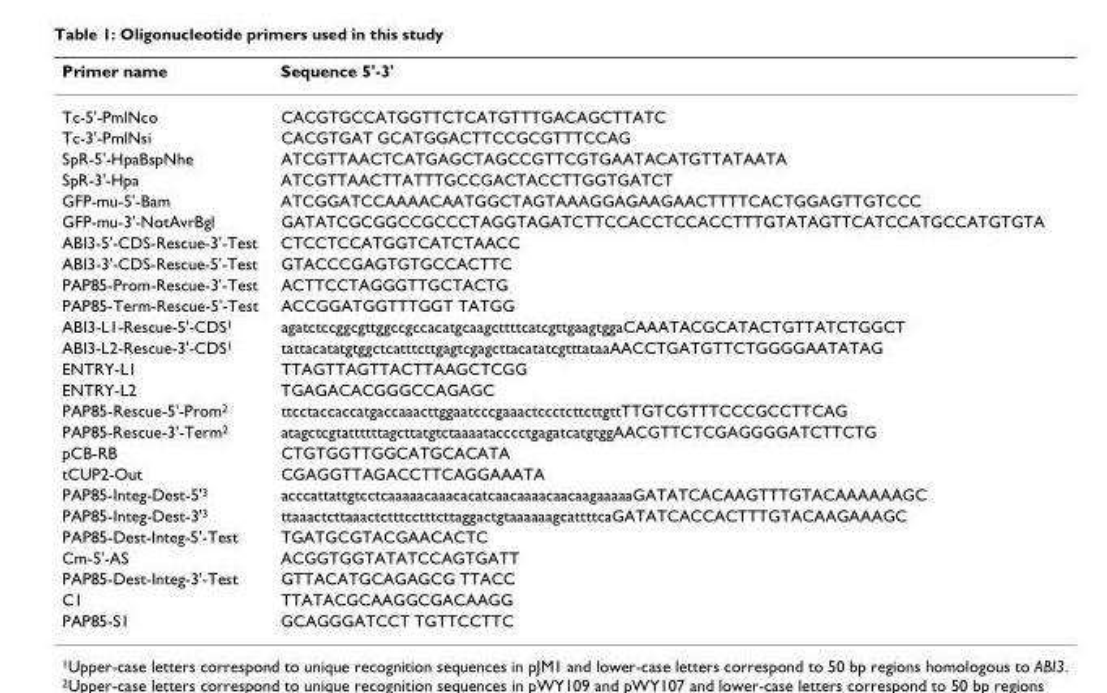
<table><thead><tr><td>Primer name</td><td>Sequence 5&#x27;-3&#x27;</td></tr></thead><tbody><tr><td>Tc-5&#x27;-PmlNco</td><td>CACGTGCCATGGTTCTCATGTTTGACAGCTTATC</td></tr><tr><td>Tc-3&#x27;-PmlNsi</td><td>CACGTGAT GCATGGACTTCCGCGTTTCCAG</td></tr><tr><td>SpR-5&#x27;-HpaBspNhe</td><td>ATCGTTAACTCATGAGCTAGCCGTTCGTGAATACATGTTATAATA</td></tr><tr><td>SpR-3&#x27;-Hpa</td><td>ATCGTTAACTTATTTGCCGACTACCTTGGTGATCT</td></tr><tr><td>GFP-mu-5&#x27;-Bam</td><td>ATCGGATCCAAAACAATGGCTAGTAAAGGAGAAGAACTTTTCACTGGAGTTGTCCC</td></tr><tr><td>GFP-mu-3&#x27;-NotAvrBgl</td><td>GATATCGCGGCCGCCCTAGGTAGATCTTCCACCTCCACCTTTGTATAGTTCATCCATGCCATGTGTA</td></tr><tr><td>ABI3-5&#x27;-CDS-Rescue-3&#x27;-Test</td><td>CTCCTCCATGGTCATCTAACC</td></tr><tr><td>ABI3-3&#x27;-CDS-Rescue-5&#x27;-Test</td><td>GTACCCGAGTGTGCCACTTC</td></tr><tr><td>PAP85-Prom-Rescue-3&#x27;-Test</td><td>ACTTCCTAGGGTTGCTACTG</td></tr><tr><td>PAP85-Term-Rescue-5&#x27;-Test</td><td>ACCGGATGGTTTGGT TATGG</td></tr><tr><td>ABI3-L1-Rescue-5&#x27;-CDS<sup>1</sup></td><td>agatctccggcgttggccgccacatgcaagcttttcatcgttgaagtggaCAAATACGCATACTGTTATCTGGCT</td></tr><tr><td>ABI3-L2-Rescue-3&#x27;-CDS<sup>1</sup></td><td>tattacatatgtggctcatttcttgagtcgagcttacatatcgtttataaAACCTGATGTTCTGGGGAATATAG</td></tr><tr><td>ENTRY-L1</td><td>TTAGTTAGTTACTTAAGCTCGG</td></tr><tr><td>ENTRY-L2</td><td>TGAGACACGGGCCAGAGC</td></tr><tr><td>PAP85-Rescue-5&#x27;-Prom<sup>2</sup></td><td>ttcctaccaccatgaccaaacttggaatcccgaaactccctcttcttgttTTGTCGTTTCCCGCCTTCAG</td></tr><tr><td>PAP85-Rescue-3&#x27;-Term<sup>2</sup></td><td>atagctcgtattttttagcttatgtctaaaatacccctgagatcatgtggAACGTTCTCGAGGGGATCTTCTG</td></tr><tr><td>pCB-RB</td><td>CTGTGGTTGGCATGCACATA</td></tr><tr><td>tCUP2-Out</td><td>CGAGGTTAGACCTTCAGGAAATA</td></tr><tr><td>PAP85-Integ-Dest-5&#x27;<sup>3</sup></td><td>acccattattgtcctcaaaaacaaacacatcaacaaaacaacaagaaaaaGATATCACAAGTTTGTACAAAAAAGC</td></tr><tr><td>PAP85-Integ-Dest-3&#x27;<sup>3</sup></td><td>ttaaactcttaaactctttcctttcttaggactgtaaaaaagcattttcaGATATCACCACTTTGTACAAGAAAGC</td></tr><tr><td>PAP85-Dest-Integ-5&#x27;-Test</td><td>TGATGCGTACGAACACTC</td></tr><tr><td>Cm-5&#x27;-AS</td><td>ACGGTGGTATATCCAGTGATT</td></tr><tr><td>PAP85-Dest-Integ-3&#x27;-Test</td><td>GTTACATGCAGAGCG TTACC</td></tr><tr><td>C1</td><td>TTATACGCAAGGCGACAAGG</td></tr><tr><td>PAP85-S1</td><td>GCAGGGATCCT TGTTCCTTC</td></tr></tbody></table>